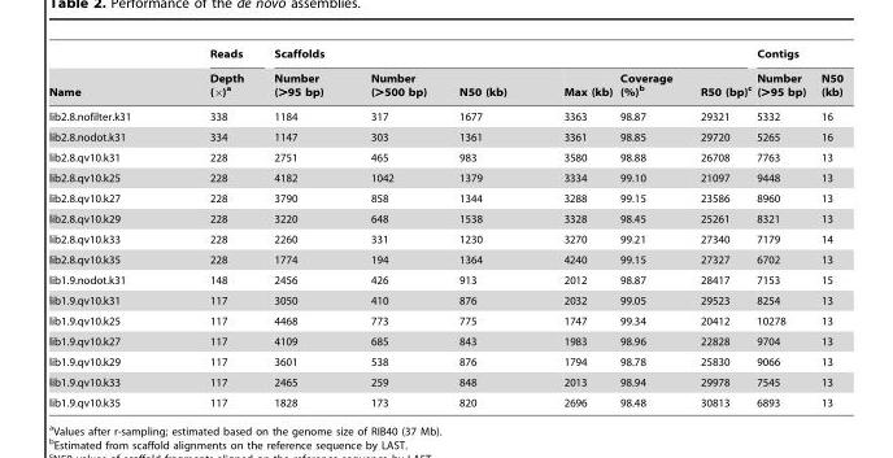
<table><thead><tr><td rowspan="2">Name</td><td rowspan="2">Reads Depth (×)<sup>a</sup></td><td colspan="6">Scaffolds</td><td colspan="2">Contigs</td></tr><tr><td>Number (&gt;95 bp)</td><td>Number (&gt;500 bp)</td><td>N50 (kb)</td><td>Max (kb)</td><td>Coverage (%)<sup>b</sup></td><td>R50 (bp)<sup>c</sup></td><td>Number (&gt;95 bp)</td><td>N50 (kb)</td></tr></thead><tbody><tr><td>lib2.8.nofilter.k31</td><td>338</td><td>1184</td><td>317</td><td>1677</td><td>3363</td><td>98.87</td><td>29321</td><td>5332</td><td>16</td></tr><tr><td>lib2.8.nodot.k31</td><td>334</td><td>1147</td><td>303</td><td>1361</td><td>3361</td><td>98.85</td><td>29720</td><td>5265</td><td>16</td></tr><tr><td>lib2.8.qv10.k31</td><td>228</td><td>2751</td><td>465</td><td>983</td><td>3580</td><td>98.88</td><td>26708</td><td>7763</td><td>13</td></tr><tr><td>lib2.8.qv10.k25</td><td>228</td><td>4182</td><td>1042</td><td>1379</td><td>3334</td><td>99.10</td><td>21097</td><td>9448</td><td>13</td></tr><tr><td>lib2.8.qv10.k27</td><td>228</td><td>3790</td><td>858</td><td>1344</td><td>3288</td><td>99.15</td><td>23586</td><td>8960</td><td>13</td></tr><tr><td>lib2.8.qv10.k29</td><td>228</td><td>3220</td><td>648</td><td>1538</td><td>3328</td><td>98.45</td><td>25261</td><td>8321</td><td>13</td></tr><tr><td>lib2.8.qv10.k33</td><td>228</td><td>2260</td><td>331</td><td>1230</td><td>3270</td><td>99.21</td><td>27340</td><td>7179</td><td>14</td></tr><tr><td>lib2.8.qv10.k35</td><td>228</td><td>1774</td><td>194</td><td>1364</td><td>4240</td><td>99.15</td><td>27327</td><td>6702</td><td>13</td></tr><tr><td>lib1.9.nodot.k31</td><td>148</td><td>2456</td><td>426</td><td>913</td><td>2012</td><td>98.87</td><td>28417</td><td>7153</td><td>15</td></tr><tr><td>lib1.9.qv10.k31</td><td>117</td><td>3050</td><td>410</td><td>876</td><td>2032</td><td>99.05</td><td>29523</td><td>8254</td><td>13</td></tr><tr><td>lib1.9.qv10.k25</td><td>117</td><td>4468</td><td>773</td><td>775</td><td>1747</td><td>99.34</td><td>20412</td><td>10278</td><td>13</td></tr><tr><td>lib1.9.qv10.k27</td><td>117</td><td>4109</td><td>685</td><td>843</td><td>1983</td><td>98.96</td><td>22828</td><td>9704</td><td>13</td></tr><tr><td>lib1.9.qv10.k29</td><td>117</td><td>3601</td><td>538</td><td>876</td><td>1794</td><td>98.78</td><td>25830</td><td>9066</td><td>13</td></tr><tr><td>lib1.9.qv10.k33</td><td>117</td><td>2465</td><td>259</td><td>848</td><td>2013</td><td>98.94</td><td>29978</td><td>7545</td><td>13</td></tr><tr><td>lib1.9.qv10.k35</td><td>117</td><td>1828</td><td>173</td><td>820</td><td>2696</td><td>98.48</td><td>30813</td><td>6893</td><td>13</td></tr></tbody></table>